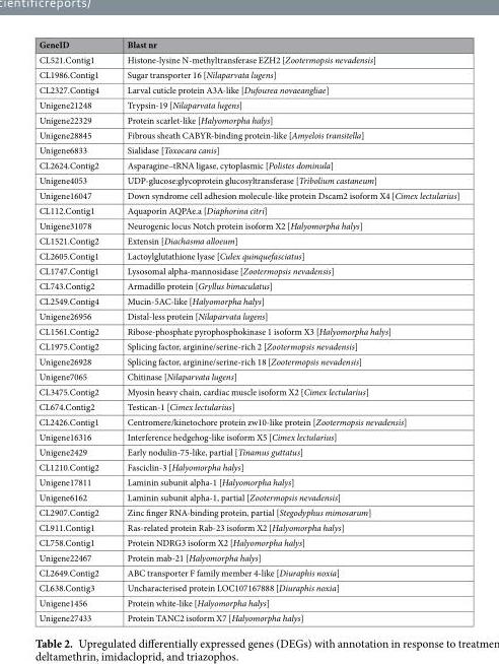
<table><thead><tr><td>GeneID</td><td>Blast nr</td></tr></thead><tbody><tr><td>CL521.Contig1</td><td>Histone-lysine N-methyltransferase EZH2 [Zootermopsis nevadensis]</td></tr><tr><td>CL1986.Contig1</td><td>Sugar transporter 16 [Nilaparvata lugens]</td></tr><tr><td>CL2327.Contig4</td><td>Larval cuticle protein A3A-like [Dufourea novaeangliae]</td></tr><tr><td>Unigene21248</td><td>Trypsin-19 [Nilaparvata lugens]</td></tr><tr><td>Unigene22329</td><td>Protein scarlet-like [Halyomorpha halys]</td></tr><tr><td>Unigene28845</td><td>Fibrous sheath CABYR-binding protein-like [Amyelois transitella]</td></tr><tr><td>Unigene6833</td><td>Sialidase [Toxocara canis]</td></tr><tr><td>CL2624.Contig2</td><td>Asparagine–tRNA ligase, cytoplasmic [Polistes dominula]</td></tr><tr><td>Unigene4053</td><td>UDP-glucose:glycoprotein glucosyltransferase [Tribolium castaneum]</td></tr><tr><td>Unigene16047</td><td>Down syndrome cell adhesion molecule-like protein Dscam2 isoform X4 [Cimex lectularius]</td></tr><tr><td>CL112.Contig1</td><td>Aquaporin AQPAe.a [Diaphorina citri]</td></tr><tr><td>Unigene31078</td><td>Neurogenic locus Notch protein isoform X2 [Halyomorpha halys]</td></tr><tr><td>CL1521.Contig2</td><td>Extensin [Diachasma alloeum]</td></tr><tr><td>CL2605.Contig1</td><td>Lactoylglutathione lyase [Culex quinquefasciatus]</td></tr><tr><td>CL1747.Contig1</td><td>Lysosomal alpha-mannosidase [Zootermopsis nevadensis]</td></tr><tr><td>CL743.Contig2</td><td>Armadillo protein [Gryllus bimaculatus]</td></tr><tr><td>CL2549.Contig4</td><td>Mucin-5AC-like [Halyomorpha halys]</td></tr><tr><td>Unigene26956</td><td>Distal-less protein [Nilaparvata lugens]</td></tr><tr><td>CL1561.Contig2</td><td>Ribose-phosphate pyrophosphokinase 1 isoform X3 [Halyomorpha halys]</td></tr><tr><td>CL1975.Contig2</td><td>Splicing factor, arginine/serine-rich 2 [Zootermopsis nevadensis]</td></tr><tr><td>Unigene26928</td><td>Splicing factor, arginine/serine-rich 18 [Zootermopsis nevadensis]</td></tr><tr><td>Unigene7065</td><td>Chitinase [Nilaparvata lugens]</td></tr><tr><td>CL3475.Contig2</td><td>Myosin heavy chain, cardiac muscle isoform X2 [Cimex lectularius]</td></tr><tr><td>CL674.Contig2</td><td>Testican-1 [Cimex lectularius]</td></tr><tr><td>CL2426.Contig1</td><td>Centromere/kinetochore protein zw10-like protein [Zootermopsis nevadensis]</td></tr><tr><td>Unigene16316</td><td>Interference hedgehog-like isoform X5 [Cimex lectularius]</td></tr><tr><td>Unigene2429</td><td>Early nodulin-75-like, partial [Tinamus guttatus]</td></tr><tr><td>CL1210.Contig2</td><td>Fasciclin-3 [Halyomorpha halys]</td></tr><tr><td>Unigene17811</td><td>Laminin subunit alpha-1 [Halyomorpha halys]</td></tr><tr><td>Unigene6162</td><td>Laminin subunit alpha-1, partial [Zootermopsis nevadensis]</td></tr><tr><td>CL2907.Contig2</td><td>Zinc finger RNA-binding protein, partial [Stegodyphus mimosarum]</td></tr><tr><td>CL911.Contig1</td><td>Ras-related protein Rab-23 isoform X2 [Halyomorpha halys]</td></tr><tr><td>CL758.Contig1</td><td>Protein NDRG3 isoform X2 [Halyomorpha halys]</td></tr><tr><td>Unigene22467</td><td>Protein mab-21 [Halyomorpha halys]</td></tr><tr><td>CL2649.Contig2</td><td>ABC transporter F family member 4-like [Diuraphis noxia]</td></tr><tr><td>CL638.Contig3</td><td>Uncharacterised protein LOC107167888 [Diuraphis noxia]</td></tr><tr><td>Unigene1456</td><td>Protein white-like [Halyomorpha halys]</td></tr><tr><td>Unigene27433</td><td>Protein TANC2 isoform X7 [Halyomorpha halys]</td></tr></tbody></table>